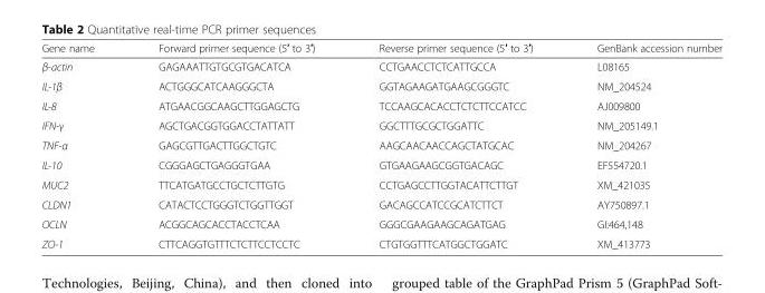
<table><thead><tr><td>Gene name</td><td>Forward primer sequence (5′ to 3′)</td><td>Reverse primer sequence (5′ to 3′)</td><td>GenBank accession number</td></tr></thead><tbody><tr><td>β-actin</td><td>GAGAAATTGTGCGTGACATCA</td><td>CCTGAACCTCTCATTGCCA</td><td>L08165</td></tr><tr><td>IL-1β</td><td>ACTGGGCATCAAGGGCTA</td><td>GGTAGAAGATGAAGCGGGTC</td><td>NM_204524</td></tr><tr><td>IL-8</td><td>ATGAACGGCAAGCTTGGAGCTG</td><td>TCCAAGCACACCTCTCTTCCATCC</td><td>AJ009800</td></tr><tr><td>IFN-γ</td><td>AGCTGACGGTGGACCTATTATT</td><td>GGCTTTGCGCTGGATTC</td><td>NM_205149.1</td></tr><tr><td>TNF-α</td><td>GAGCGTTGACTTGGCTGTC</td><td>AAGCAACAACCAGCTATGCAC</td><td>NM_204267</td></tr><tr><td>IL-10</td><td>CGGGAGCTGAGGGTGAA</td><td>GTGAAGAAGCGGTGACAGC</td><td>EF554720.1</td></tr><tr><td>MUC2</td><td>TTCATGATGCCTGCTCTTGTG</td><td>CCTGAGCCTTGGTACATTCTTGT</td><td>XM_421035</td></tr><tr><td>CLDN1</td><td>CATACTCCTGGGTCTGGTTGGT</td><td>GACAGCCATCCGCATCTTCT</td><td>AY750897.1</td></tr><tr><td>OCLN</td><td>ACGGCAGCACCTACCTCAA</td><td>GGGCGAAGAAGCAGATGAG</td><td>GI:464,148</td></tr><tr><td>ZO-1</td><td>CTTCAGGTGTTTCTCTTCCTCCTC</td><td>CTGTGGTTTCATGGCTGGATC</td><td>XM_413773</td></tr></tbody></table>